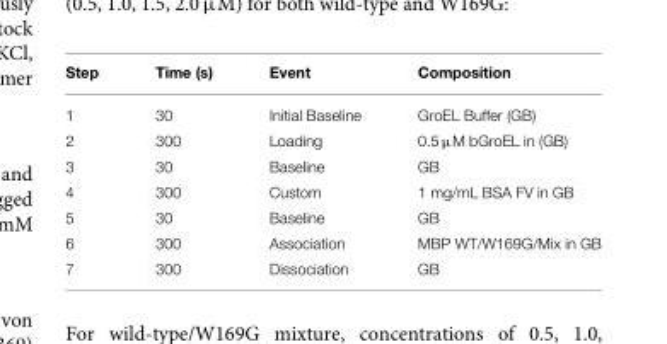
<table><thead><tr><td>Step</td><td>Time (s)</td><td>Event</td><td>Composition</td></tr></thead><tbody><tr><td>1</td><td>30</td><td>Initial Baseline</td><td>GroEL Buffer (GB)</td></tr><tr><td>2</td><td>300</td><td>Loading</td><td>0.5 µM bGroEL in (GB)</td></tr><tr><td>3</td><td>30</td><td>Baseline</td><td>GB</td></tr><tr><td>4</td><td>300</td><td>Custom</td><td>1 mg/mL BSA FV in GB</td></tr><tr><td>5</td><td>30</td><td>Baseline</td><td>GB</td></tr><tr><td>6</td><td>300</td><td>Association</td><td>MBP WT/W169G/Mix in GB</td></tr><tr><td>7</td><td>300</td><td>Dissociation</td><td>GB</td></tr></tbody></table>